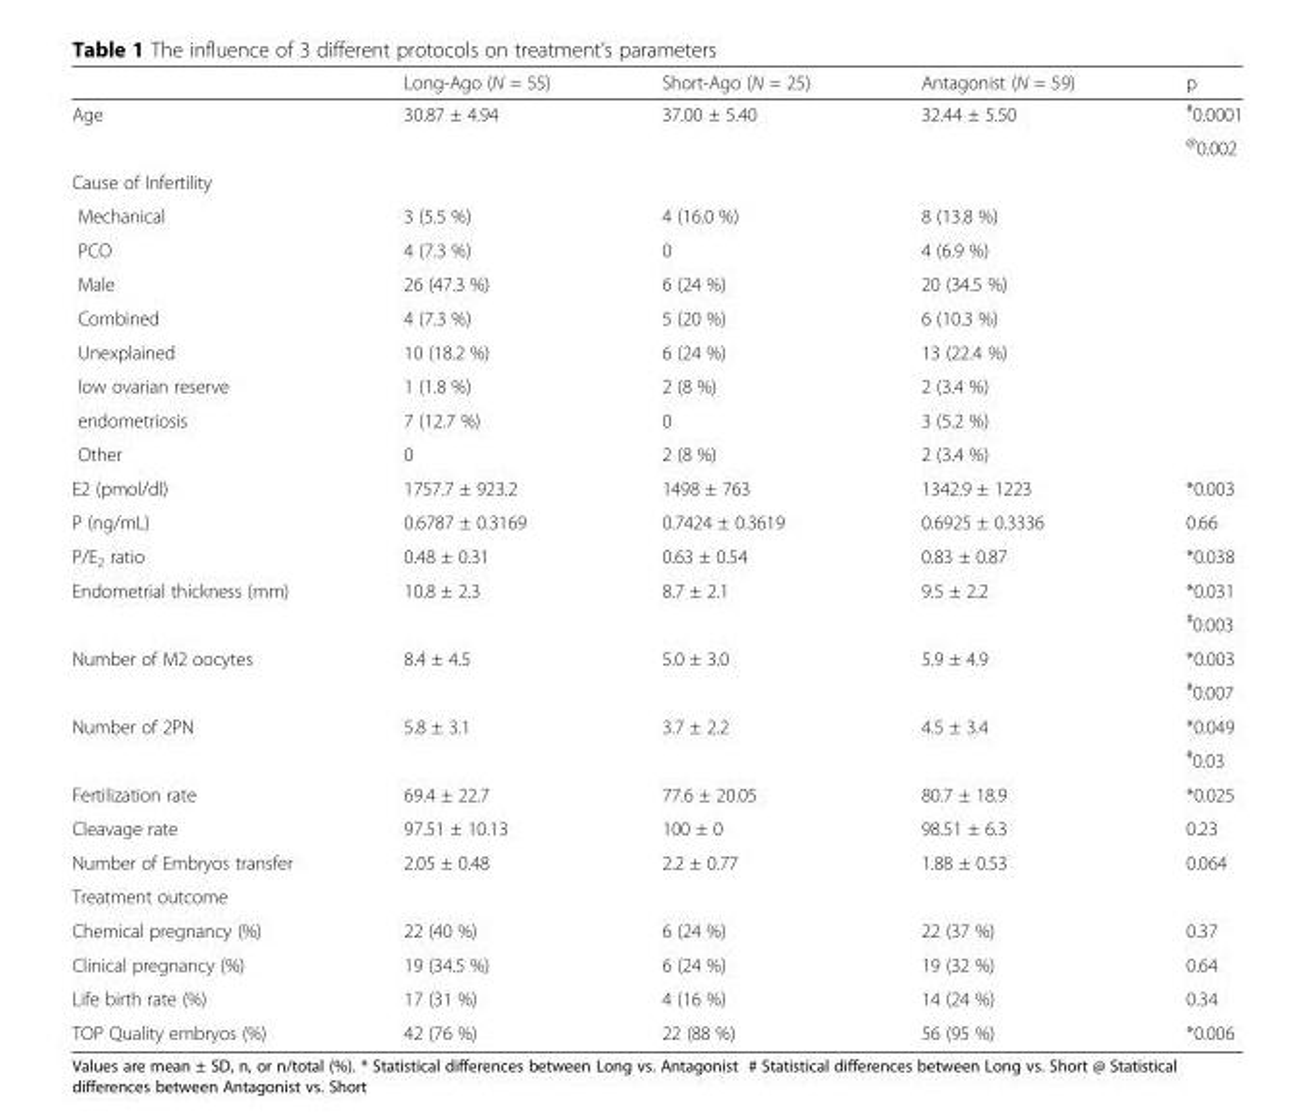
<table><thead><tr><td></td><td>Long-Ago (N = 55)</td><td>Short-Ago (N = 25)</td><td>Antagonist (N = 59)</td><td>p</td></tr></thead><tbody><tr><td rowspan="2">Age</td><td rowspan="2">30.87 ± 4.94</td><td rowspan="2">37.00 ± 5.40</td><td rowspan="2">32.44 ± 5.50</td><td><sup>#</sup>0.0001</td></tr><tr><td><sup>@</sup>0.002</td></tr><tr><td colspan="5">Cause of Infertility</td></tr><tr><td>Mechanical</td><td>3 (5.5 %)</td><td>4 (16.0 %)</td><td>8 (13.8 %)</td><td></td></tr><tr><td>PCO</td><td>4 (7.3 %)</td><td>0</td><td>4 (6.9 %)</td><td></td></tr><tr><td>Male</td><td>26 (47.3 %)</td><td>6 (24 %)</td><td>20 (34.5 %)</td><td></td></tr><tr><td>Combined</td><td>4 (7.3 %)</td><td>5 (20 %)</td><td>6 (10.3 %)</td><td></td></tr><tr><td>Unexplained</td><td>10 (18.2 %)</td><td>6 (24 %)</td><td>13 (22.4 %)</td><td></td></tr><tr><td>low ovarian reserve</td><td>1 (1.8 %)</td><td>2 (8 %)</td><td>2 (3.4 %)</td><td></td></tr><tr><td>endometriosis</td><td>7 (12.7 %)</td><td>0</td><td>3 (5.2 %)</td><td></td></tr><tr><td>Other</td><td>0</td><td>2 (8 %)</td><td>2 (3.4 %)</td><td></td></tr><tr><td>E2 (pmol/dl)</td><td>1757.7 ± 923.2</td><td>1498 ± 763</td><td>1342.9 ± 1223</td><td>*0.003</td></tr><tr><td>P (ng/mL)</td><td>0.6787 ± 0.3169</td><td>0.7424 ± 0.3619</td><td>0.6925 ± 0.3336</td><td>0.66</td></tr><tr><td>P/E<sub>2</sub> ratio</td><td>0.48 ± 0.31</td><td>0.63 ± 0.54</td><td>0.83 ± 0.87</td><td>*0.038</td></tr><tr><td rowspan="2">Endometrial thickness (mm)</td><td rowspan="2">10.8 ± 2.3</td><td rowspan="2">8.7 ± 2.1</td><td rowspan="2">9.5 ± 2.2</td><td>*0.031</td></tr><tr><td><sup>#</sup>0.003</td></tr><tr><td rowspan="2">Number of M2 oocytes</td><td rowspan="2">8.4 ± 4.5</td><td rowspan="2">5.0 ± 3.0</td><td rowspan="2">5.9 ± 4.9</td><td>*0.003</td></tr><tr><td><sup>#</sup>0.007</td></tr><tr><td rowspan="2">Number of 2PN</td><td rowspan="2">5.8 ± 3.1</td><td rowspan="2">3.7 ± 2.2</td><td rowspan="2">4.5 ± 3.4</td><td>*0.049</td></tr><tr><td><sup>#</sup>0.03</td></tr><tr><td>Fertilization rate</td><td>69.4 ± 22.7</td><td>77.6 ± 20.05</td><td>80.7 ± 18.9</td><td>*0.025</td></tr><tr><td>Cleavage rate</td><td>97.51 ± 10.13</td><td>100 ± 0</td><td>98.51 ± 6.3</td><td>0.23</td></tr><tr><td>Number of Embryos transfer</td><td>2.05 ± 0.48</td><td>2.2 ± 0.77</td><td>1.88 ± 0.53</td><td>0.064</td></tr><tr><td colspan="5">Treatment outcome</td></tr><tr><td>Chemical pregnancy (%)</td><td>22 (40 %)</td><td>6 (24 %)</td><td>22 (37 %)</td><td>0.37</td></tr><tr><td>Clinical pregnancy (%)</td><td>19 (34.5 %)</td><td>6 (24 %)</td><td>19 (32 %)</td><td>0.64</td></tr><tr><td>Life birth rate (%)</td><td>17 (31 %)</td><td>4 (16 %)</td><td>14 (24 %)</td><td>0.34</td></tr><tr><td>TOP Quality embryos (%)</td><td>42 (76 %)</td><td>22 (88 %)</td><td>56 (95 %)</td><td>*0.006</td></tr></tbody></table>